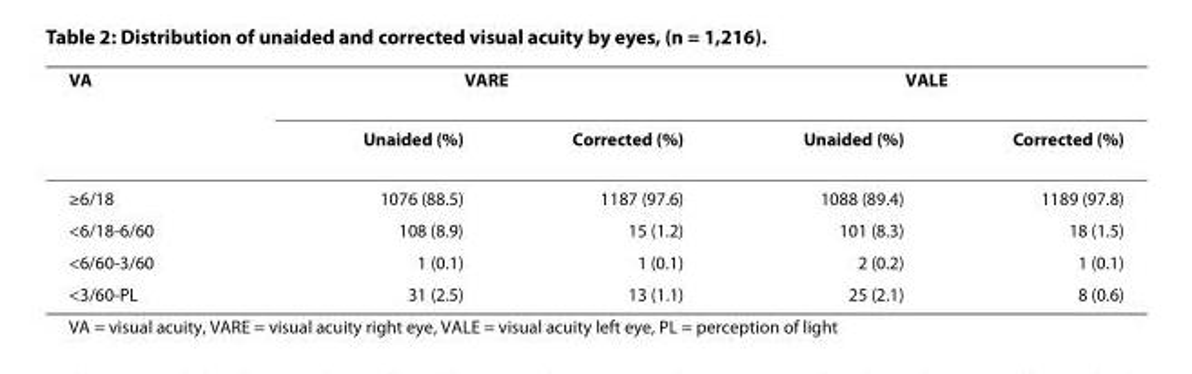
<table><thead><tr><td rowspan="2">VA</td><td colspan="2">VARE</td><td colspan="2">VALE</td></tr><tr><td>Unaided (%)</td><td>Corrected (%)</td><td>Unaided (%)</td><td>Corrected (%)</td></tr></thead><tbody><tr><td>≥6/18</td><td>1076 (88.5)</td><td>1187 (97.6)</td><td>1088 (89.4)</td><td>1189 (97.8)</td></tr><tr><td>&lt;6/18-6/60</td><td>108 (8.9)</td><td>15 (1.2)</td><td>101 (8.3)</td><td>18 (1.5)</td></tr><tr><td>&lt;6/60-3/60</td><td>1 (0.1)</td><td>1 (0.1)</td><td>2 (0.2)</td><td>1 (0.1)</td></tr><tr><td>&lt;3/60-PL</td><td>31 (2.5)</td><td>13 (1.1)</td><td>25 (2.1)</td><td>8 (0.6)</td></tr></tbody></table>